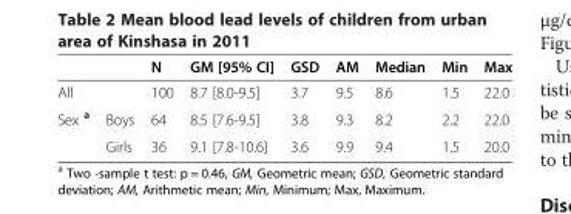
<table><thead><tr><td></td><td></td><td>N</td><td>GM [95% CI]</td><td>GSD</td><td>AM</td><td>Median</td><td>Min</td><td>Max</td></tr></thead><tbody><tr><td colspan="2">All</td><td>100</td><td>8.7 [8.0-9.5]</td><td>3.7</td><td>9.5</td><td>8.6</td><td>1.5</td><td>22.0</td></tr><tr><td rowspan="2">Sex <sup>a</sup></td><td>Boys</td><td>64</td><td>8.5 [7.6-9.5]</td><td>3.8</td><td>9.3</td><td>8.2</td><td>2.2</td><td>22.0</td></tr><tr><td>Girls</td><td>36</td><td>9.1 [7.8-10.6]</td><td>3.6</td><td>9.9</td><td>9.4</td><td>1.5</td><td>20.0</td></tr></tbody></table>